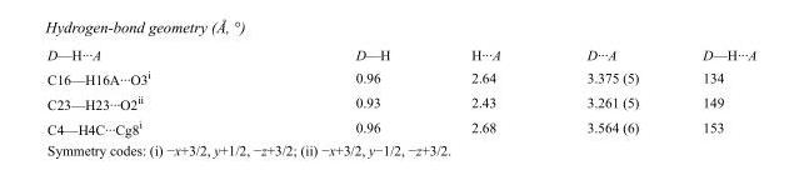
<table><tbody><tr><td>D—H···A</td><td>D—H</td><td>H···A</td><td>D···A</td><td>D—H···A</td></tr><tr><td>C16—H16A···O3<sup>i</sup></td><td>0.96</td><td>2.64</td><td>3.375 (5)</td><td>134</td></tr><tr><td>C23—H23···O2<sup>ii</sup></td><td>0.93</td><td>2.43</td><td>3.261 (5)</td><td>149</td></tr><tr><td>C4—H4C···Cg8<sup>i</sup></td><td>0.96</td><td>2.68</td><td>3.564 (6)</td><td>153</td></tr></tbody></table>